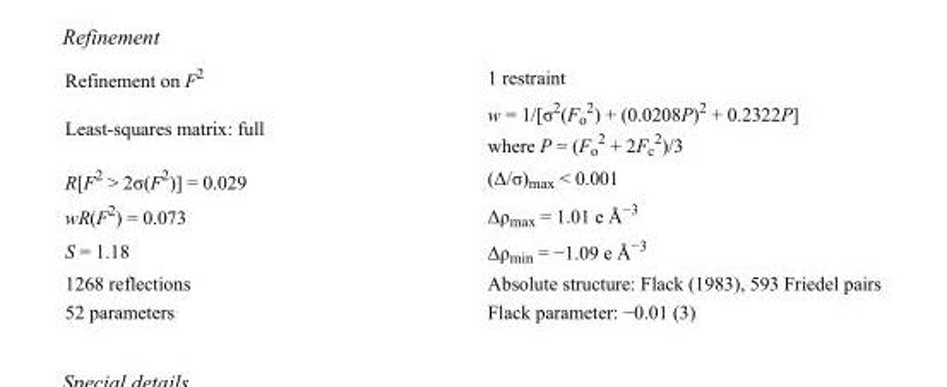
<table><tbody><tr><td>Refinement on F<sup>2</sup></td><td>1 restraint</td></tr><tr><td>Least-squares matrix: full</td><td>w = 1/[σ<sup>2</sup>(F<sub>o</sub> <sup>2</sup>) + (0.0208P)<sup>2</sup> + 0.2322P] where P = (F<sub>o</sub> <sup>2</sup> + 2F<sub>c</sub> <sup>2</sup>)/3</td></tr><tr><td>R[F<sup>2</sup> &gt; 2σ(F<sup>2</sup>)] = 0.029</td><td>(Δ/σ)<sub>max</sub> &lt; 0.001</td></tr><tr><td>wR(F<sup>2</sup>) = 0.073</td><td>Δρ<sub>max</sub> = 1.01 e Å<sup>−3</sup></td></tr><tr><td>S = 1.18</td><td>Δρ<sub>min</sub> = −1.09 e Å<sup>−3</sup></td></tr><tr><td>1268 reflections</td><td>Absolute structure: Flack (1983), 593 Friedel pairs</td></tr><tr><td>52 parameters</td><td>Flack parameter: −0.01 (3)</td></tr></tbody></table>